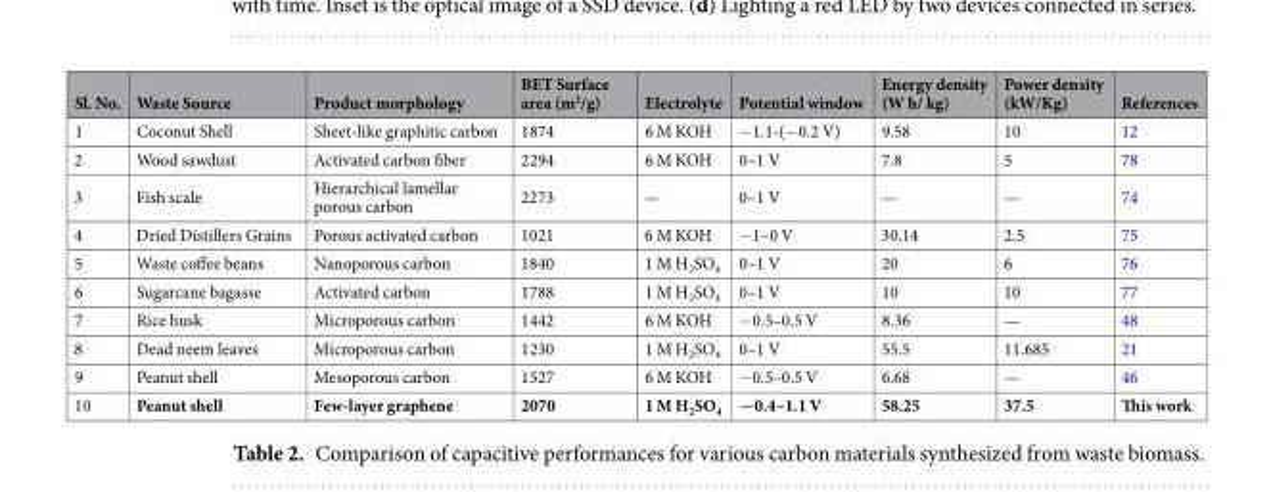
<table><thead><tr><td>Sl. No.</td><td>Waste Source</td><td>Product morphology</td><td>BET Surface area (m<sup>2</sup>/g)</td><td>Electrolyte</td><td>Potential window</td><td>Energy density (W h/ kg)</td><td>Power density (kW/Kg)</td><td>References</td></tr></thead><tbody><tr><td>1</td><td>Coconut Shell</td><td>Sheet-like graphitic carbon</td><td>1874</td><td>6 M KOH</td><td>−1.1-(−0.2 V)</td><td>9.58</td><td>10</td><td>12</td></tr><tr><td>2</td><td>Wood sawdust</td><td>Activated carbon fiber</td><td>2294</td><td>6 M KOH</td><td>0–1 V</td><td>7.8</td><td>5</td><td>78</td></tr><tr><td>3</td><td>Fish scale</td><td>Hierarchical lamellar porous carbon</td><td>2273</td><td>—</td><td>0–1 V</td><td>—</td><td>—</td><td>74</td></tr><tr><td>4</td><td>Dried Distillers Grains</td><td>Porous activated carbon</td><td>1021</td><td>6 M KOH</td><td>−1–0 V</td><td>30.14</td><td>2.5</td><td>75</td></tr><tr><td>5</td><td>Waste coffee beans</td><td>Nanoporous carbon</td><td>1840</td><td>1 M H<sub>2</sub>SO<sub>4</sub></td><td>0–1 V</td><td>20</td><td>6</td><td>76</td></tr><tr><td>6</td><td>Sugarcane bagasse</td><td>Activated carbon</td><td>1788</td><td>1 M H<sub>2</sub>SO<sub>4</sub></td><td>0–1 V</td><td>10</td><td>10</td><td>77</td></tr><tr><td>7</td><td>Rice husk</td><td>Microporous carbon</td><td>1442</td><td>6 M KOH</td><td>−0.5–0.5 V</td><td>8.36</td><td>—</td><td>48</td></tr><tr><td>8</td><td>Dead neem leaves</td><td>Microporous carbon</td><td>1230</td><td>1 M H<sub>2</sub>SO<sub>4</sub></td><td>0–1 V</td><td>55.5</td><td>11.685</td><td>21</td></tr><tr><td>9</td><td>Peanut shell</td><td>Mesoporous carbon</td><td>1527</td><td>6 M KOH</td><td>−0.5–0.5 V</td><td>6.68</td><td>—</td><td>46</td></tr><tr><td>10</td><td>Peanut shell</td><td>Few-layer graphene</td><td>2070</td><td>1 M H<sub>2</sub>SO<sub>4</sub></td><td>−0.4–1.1 V</td><td>58.25</td><td>37.5</td><td>This work</td></tr></tbody></table>